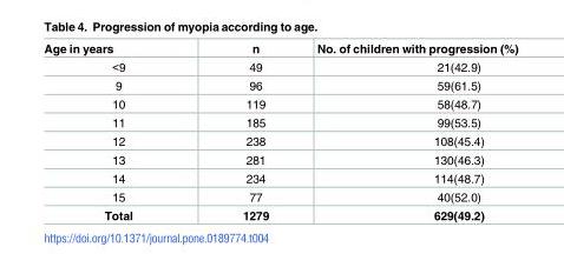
<table><thead><tr><td>Age in years</td><td>n</td><td>No. of children with progression (%)</td></tr></thead><tbody><tr><td>&lt;9</td><td>49</td><td>21(42.9)</td></tr><tr><td>9</td><td>96</td><td>59(61.5)</td></tr><tr><td>10</td><td>119</td><td>58(48.7)</td></tr><tr><td>11</td><td>185</td><td>99(53.5)</td></tr><tr><td>12</td><td>238</td><td>108(45.4)</td></tr><tr><td>13</td><td>281</td><td>130(46.3)</td></tr><tr><td>14</td><td>234</td><td>114(48.7)</td></tr><tr><td>15</td><td>77</td><td>40(52.0)</td></tr><tr><td>Total</td><td>1279</td><td>629(49.2)</td></tr></tbody></table>